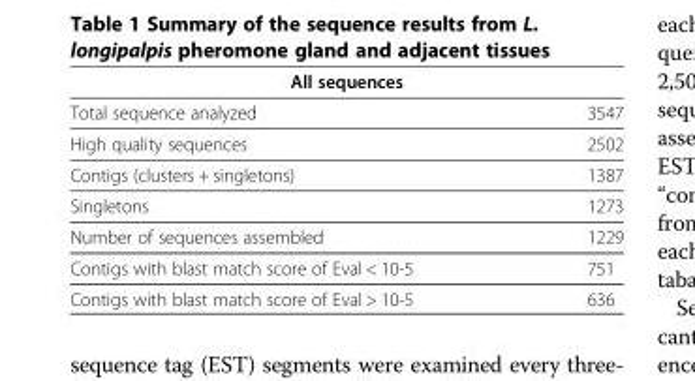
<table><thead><tr><td>All sequences</td><td></td></tr></thead><tbody><tr><td>Total sequence analyzed</td><td>3547</td></tr><tr><td>High quality sequences</td><td>2502</td></tr><tr><td>Contigs (clusters + singletons)</td><td>1387</td></tr><tr><td>Singletons</td><td>1273</td></tr><tr><td>Number of sequences assembled</td><td>1229</td></tr><tr><td>Contigs with blast match score of Eval &lt; 10-5</td><td>751</td></tr><tr><td>Contigs with blast match score of Eval &gt; 10-5</td><td>636</td></tr></tbody></table>